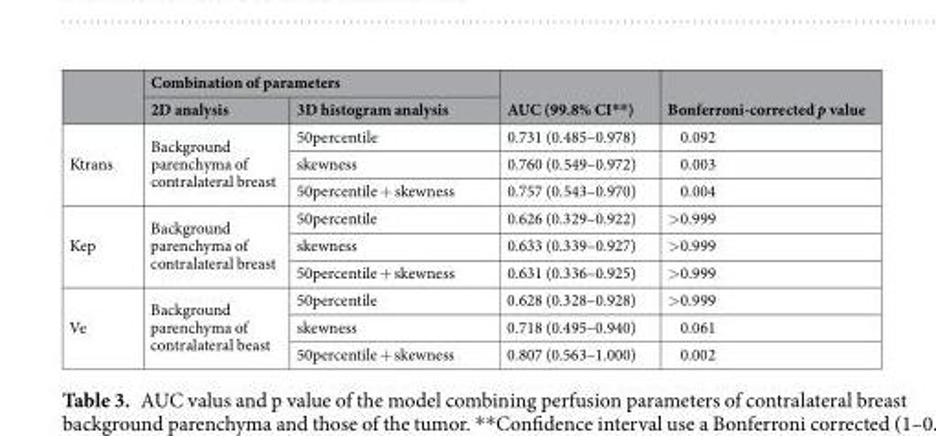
<table><thead><tr><td rowspan="2"></td><td colspan="2">Combination of parameters</td><td rowspan="2">AUC (99.8% CI**)</td><td rowspan="2">Bonferroni-corrected p value</td></tr><tr><td>2D analysis</td><td>3D histogram analysis</td></tr></thead><tbody><tr><td rowspan="3">Ktrans</td><td rowspan="3">Background parenchyma of contralateral breast</td><td>50percentile</td><td>0.731 (0.485–0.978)</td><td>0.092</td></tr><tr><td>skewness</td><td>0.760 (0.549–0.972)</td><td>0.003</td></tr><tr><td>50percentile + skewness</td><td>0.757 (0.543–0.970)</td><td>0.004</td></tr><tr><td rowspan="3">Kep</td><td rowspan="3">Background parenchyma of contralateral breast</td><td>50percentile</td><td>0.626 (0.329–0.922)</td><td>&gt;0.999</td></tr><tr><td>skewness</td><td>0.633 (0.339–0.927)</td><td>&gt;0.999</td></tr><tr><td>50percentile + skewness</td><td>0.631 (0.336–0.925)</td><td>&gt;0.999</td></tr><tr><td rowspan="3">Ve</td><td rowspan="3">Background parenchyma of contralateral beast</td><td>50percentile</td><td>0.628 (0.328–0.928)</td><td>&gt;0.999</td></tr><tr><td>skewness</td><td>0.718 (0.495–0.940)</td><td>0.061</td></tr><tr><td>50percentile + skewness</td><td>0.807 (0.563–1.000)</td><td>0.002</td></tr></tbody></table>